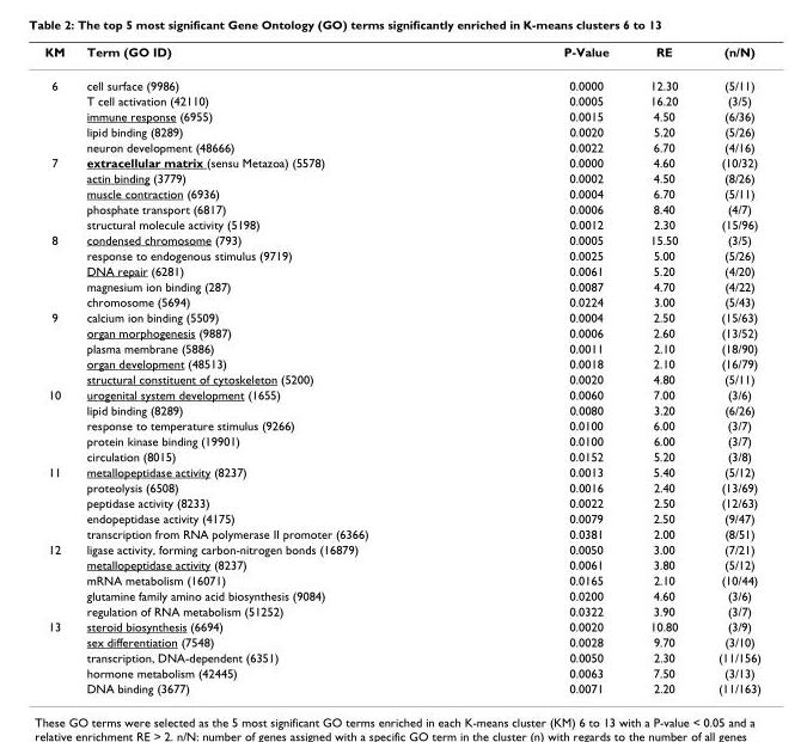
<table><thead><tr><td>KM</td><td>Term (GO ID)</td><td>P-Value</td><td>RE</td><td>(n/N)</td></tr></thead><tbody><tr><td rowspan="5">6</td><td>cell surface (9986)</td><td>0.0000</td><td>12.30</td><td>(5/11)</td></tr><tr><td>T cell activation (42110)</td><td>0.0005</td><td>16.20</td><td>(3/5)</td></tr><tr><td>immune response (6955)</td><td>0.0015</td><td>4.50</td><td>(6/36)</td></tr><tr><td>lipid binding (8289)</td><td>0.0020</td><td>5.20</td><td>(5/26)</td></tr><tr><td>neuron development (48666)</td><td>0.0022</td><td>6.70</td><td>(4/16)</td></tr><tr><td rowspan="5">7</td><td>extracellular matrix (sensu Metazoa) (5578)</td><td>0.0000</td><td>4.60</td><td>(10/32)</td></tr><tr><td>actin binding (3779)</td><td>0.0002</td><td>4.50</td><td>(8/26)</td></tr><tr><td>muscle contraction (6936)</td><td>0.0004</td><td>6.70</td><td>(5/11)</td></tr><tr><td>phosphate transport (6817)</td><td>0.0006</td><td>8.40</td><td>(4/7)</td></tr><tr><td>structural molecule activity (5198)</td><td>0.0012</td><td>2.30</td><td>(15/96)</td></tr><tr><td rowspan="5">8</td><td>condensed chromosome (793)</td><td>0.0005</td><td>15.50</td><td>(3/5)</td></tr><tr><td>response to endogenous stimulus (9719)</td><td>0.0025</td><td>5.00</td><td>(5/26)</td></tr><tr><td>DNA repair (6281)</td><td>0.0061</td><td>5.20</td><td>(4/20)</td></tr><tr><td>magnesium ion binding (287)</td><td>0.0087</td><td>4.70</td><td>(4/22)</td></tr><tr><td>chromosome (5694)</td><td>0.0224</td><td>3.00</td><td>(5/43)</td></tr><tr><td rowspan="5">9</td><td>calcium ion binding (5509)</td><td>0.0004</td><td>2.50</td><td>(15/63)</td></tr><tr><td>organ morphogenesis (9887)</td><td>0.0006</td><td>2.60</td><td>(13/52)</td></tr><tr><td>plasma membrane (5886)</td><td>0.0011</td><td>2.10</td><td>(18/90)</td></tr><tr><td>organ development (48513)</td><td>0.0018</td><td>2.10</td><td>(16/79)</td></tr><tr><td>structural constituent of cytoskeleton (5200)</td><td>0.0020</td><td>4.80</td><td>(5/11)</td></tr><tr><td rowspan="5">10</td><td>urogenital system development (1655)</td><td>0.0060</td><td>7.00</td><td>(3/6)</td></tr><tr><td>lipid binding (8289)</td><td>0.0080</td><td>3.20</td><td>(6/26)</td></tr><tr><td>response to temperature stimulus (9266)</td><td>0.0100</td><td>6.00</td><td>(3/7)</td></tr><tr><td>protein kinase binding (19901)</td><td>0.0100</td><td>6.00</td><td>(3/7)</td></tr><tr><td>circulation (8015)</td><td>0.0152</td><td>5.20</td><td>(3/8)</td></tr><tr><td rowspan="5">11</td><td>metallopeptidase activity (8237)</td><td>0.0013</td><td>5.40</td><td>(5/12)</td></tr><tr><td>proteolysis (6508)</td><td>0.0016</td><td>2.40</td><td>(13/69)</td></tr><tr><td>peptidase activity (8233)</td><td>0.0022</td><td>2.50</td><td>(12/63)</td></tr><tr><td>endopeptidase activity (4175)</td><td>0.0079</td><td>2.50</td><td>(9/47)</td></tr><tr><td>transcription from RNA polymerase II promoter (6366)</td><td>0.0381</td><td>2.00</td><td>(8/51)</td></tr><tr><td rowspan="5">12</td><td>ligase activity, forming carbon-nitrogen bonds (16879)</td><td>0.0050</td><td>3.00</td><td>(7/21)</td></tr><tr><td>metallopeptidase activity (8237)</td><td>0.0061</td><td>3.80</td><td>(5/12)</td></tr><tr><td>mRNA metabolism (16071)</td><td>0.0165</td><td>2.10</td><td>(10/44)</td></tr><tr><td>glutamine family amino acid biosynthesis (9084)</td><td>0.0200</td><td>4.60</td><td>(3/6)</td></tr><tr><td>regulation of RNA metabolism (51252)</td><td>0.0322</td><td>3.90</td><td>(3/7)</td></tr><tr><td rowspan="5">13</td><td>steroid biosynthesis (6694)</td><td>0.0020</td><td>10.80</td><td>(3/9)</td></tr><tr><td>sex differentiation (7548)</td><td>0.0028</td><td>9.70</td><td>(3/10)</td></tr><tr><td>transcription, DNA-dependent (6351)</td><td>0.0050</td><td>2.30</td><td>(11/156)</td></tr><tr><td>hormone metabolism (42445)</td><td>0.0063</td><td>7.50</td><td>(3/13)</td></tr><tr><td>DNA binding (3677)</td><td>0.0071</td><td>2.20</td><td>(11/163)</td></tr></tbody></table>